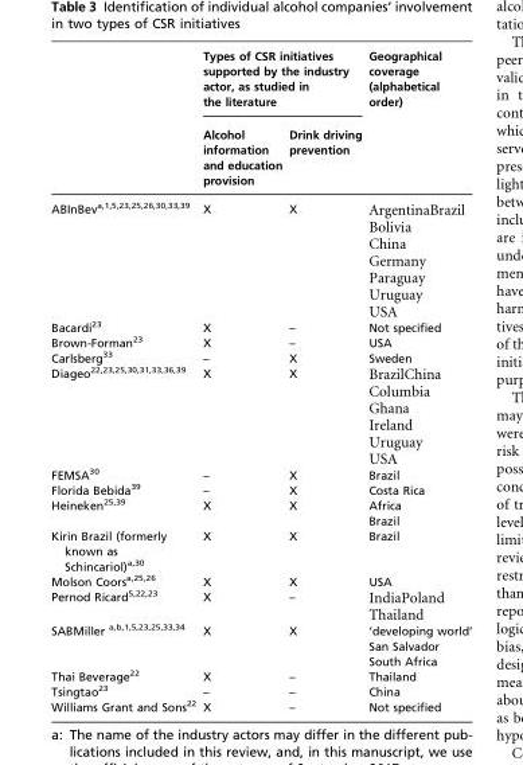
<table><thead><tr><td rowspan="2"></td><td colspan="2">Types of CSR initiatives supported by the industry actor, as studied in the literature</td><td rowspan="2">Geographical coverage (alphabetical order)</td></tr><tr><td>Alcohol information and education provision</td><td>Drink driving prevention</td></tr></thead><tbody><tr><td>ABInBev<sup>a,1,5,23,25,26,30,33,39</sup></td><td>X</td><td>X</td><td>ArgentinaBrazil Bolivia China Germany Paraguay Uruguay USA</td></tr><tr><td>Bacardi<sup>23</sup></td><td>X</td><td>–</td><td>Not specified</td></tr><tr><td>Brown-Forman<sup>23</sup></td><td>X</td><td>–</td><td>USA</td></tr><tr><td>Carlsberg<sup>33</sup></td><td>–</td><td>X</td><td>Sweden</td></tr><tr><td>Diageo<sup>22,23,25,30,31,33,36,39</sup></td><td>X</td><td>X</td><td>BrazilChina Columbia Ghana Ireland Uruguay USA</td></tr><tr><td>FEMSA<sup>30</sup></td><td>–</td><td>X</td><td>Brazil</td></tr><tr><td>Florida Bebida<sup>39</sup></td><td>–</td><td>X</td><td>Costa Rica</td></tr><tr><td>Heineken<sup>25,39</sup></td><td>X</td><td>X</td><td>Africa Brazil</td></tr><tr><td>Kirin Brazil (formerly known as Schincariol)<sup>a,30</sup></td><td>X</td><td>X</td><td>Brazil</td></tr><tr><td>Molson Coors<sup>a,25,26</sup></td><td>X</td><td>X</td><td>USA</td></tr><tr><td>Pernod Ricard<sup>5,22,23</sup></td><td>X</td><td>–</td><td>IndiaPoland Thailand</td></tr><tr><td>SABMiller <sup>a,b,1,5,23,25,33,34</sup></td><td>X</td><td>X</td><td>‘developing world’ San Salvador South Africa</td></tr><tr><td>Thai Beverage<sup>22</sup></td><td>X</td><td>–</td><td>Thailand</td></tr><tr><td>Tsingtao<sup>23</sup></td><td>–</td><td>–</td><td>China</td></tr><tr><td>Williams Grant and Sons<sup>22</sup></td><td>X</td><td>–</td><td>Not specified</td></tr></tbody></table>